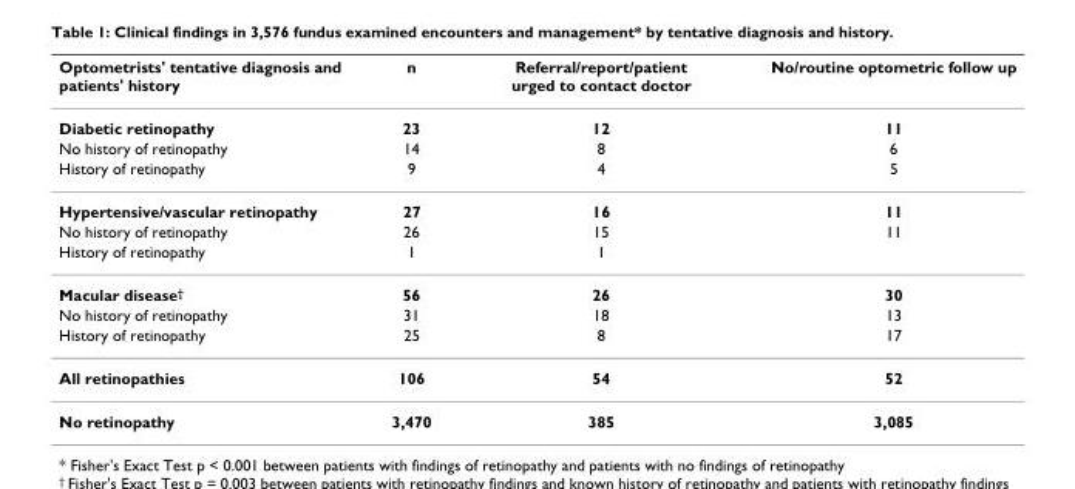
<table><thead><tr><td>Optometrists&#x27; tentative diagnosis and patients&#x27; history</td><td>n</td><td>Referral/report/patient urged to contact doctor</td><td>No/routine optometric follow up</td></tr></thead><tbody><tr><td>Diabetic retinopathy</td><td>23</td><td>12</td><td>11</td></tr><tr><td>No history of retinopathy</td><td>14</td><td>8</td><td>6</td></tr><tr><td>History of retinopathy</td><td>9</td><td>4</td><td>5</td></tr><tr><td>Hypertensive/vascular retinopathy</td><td>27</td><td>16</td><td>11</td></tr><tr><td>No history of retinopathy</td><td>26</td><td>15</td><td>11</td></tr><tr><td>History of retinopathy</td><td>1</td><td>1</td><td></td></tr><tr><td>Macular disease<sup>†</sup></td><td>56</td><td>26</td><td>30</td></tr><tr><td>No history of retinopathy</td><td>31</td><td>18</td><td>13</td></tr><tr><td>History of retinopathy</td><td>25</td><td>8</td><td>17</td></tr><tr><td>All retinopathies</td><td>106</td><td>54</td><td>52</td></tr><tr><td>No retinopathy</td><td>3,470</td><td>385</td><td>3,085</td></tr></tbody></table>